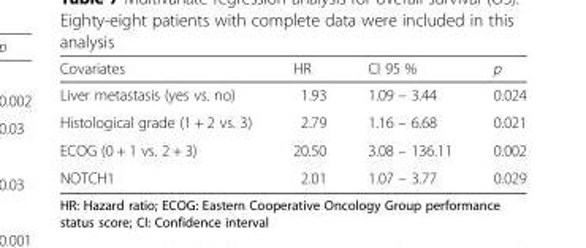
<table><thead><tr><td>Covariates</td><td>HR</td><td>CI 95 %</td><td>p</td></tr></thead><tbody><tr><td>Liver metastasis (yes vs. no)</td><td>1.93</td><td>1.09 – 3.44</td><td>0.024</td></tr><tr><td>Histological grade (1 + 2 vs. 3)</td><td>2.79</td><td>1.16 – 6.68</td><td>0.021</td></tr><tr><td>ECOG (0 + 1 vs. 2 + 3)</td><td>20.50</td><td>3.08 – 136.11</td><td>0.002</td></tr><tr><td>NOTCH1</td><td>2.01</td><td>1.07 – 3.77</td><td>0.029</td></tr></tbody></table>